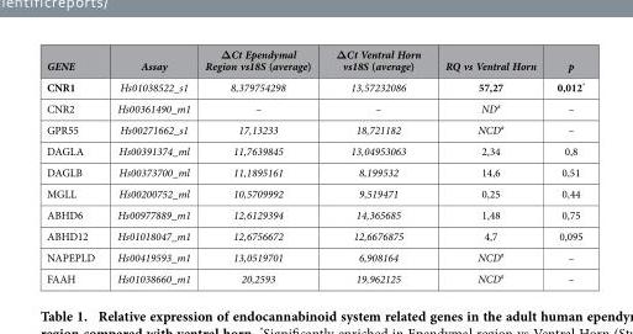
<table><thead><tr><td>GENE</td><td>Assay</td><td>ΔCt Ependymal Region vs18S (average)</td><td>ΔCt Ventral Horn vs18S (average)</td><td>RQ vs Ventral Horn</td><td>p</td></tr></thead><tbody><tr><td>CNR1</td><td>Hs01038522_s1</td><td>8,379754298</td><td>13,57232086</td><td>57,27</td><td>0,012*</td></tr><tr><td>CNR2</td><td>Hs00361490_m1</td><td>–</td><td>–</td><td>ND<sup>#</sup></td><td>–</td></tr><tr><td>GPR55</td><td>Hs00271662_s1</td><td>17,13233</td><td>18,721182</td><td>NCD<sup>#</sup></td><td>–</td></tr><tr><td>DAGLA</td><td>Hs00391374_ml</td><td>11,7639845</td><td>13,04953063</td><td>2,34</td><td>0,8</td></tr><tr><td>DAGLB</td><td>Hs00373700_ml</td><td>11,1895161</td><td>8,199532</td><td>14,6</td><td>0,51</td></tr><tr><td>MGLL</td><td>Hs00200752_ml</td><td>10,5709992</td><td>9,519471</td><td>0,25</td><td>0,44</td></tr><tr><td>ABHD6</td><td>Hs00977889_m1</td><td>12,6129394</td><td>14,365685</td><td>1,48</td><td>0,75</td></tr><tr><td>ABHD12</td><td>Hs01018047_m1</td><td>12,6756672</td><td>12,6676875</td><td>4,7</td><td>0,095</td></tr><tr><td>NAPEPLD</td><td>Hs00419593_m1</td><td>13,0519701</td><td>6,908164</td><td>NCD#</td><td>–</td></tr><tr><td>FAAH</td><td>Hs01038660_m1</td><td>20,2593</td><td>19,962125</td><td>NCD#</td><td>–</td></tr></tbody></table>